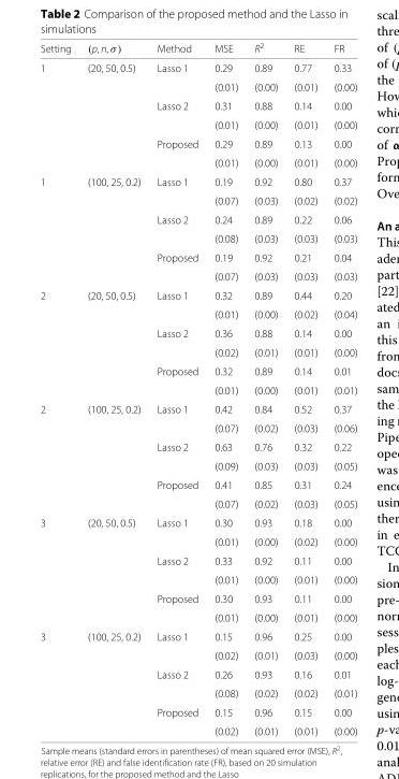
<table><thead><tr><td>Setting</td><td>(p, n, σ)</td><td>Method</td><td>MSE</td><td>R<sup>2</sup></td><td>RE</td><td>FR</td></tr></thead><tbody><tr><td rowspan="6">1</td><td>(20, 50, 0.5)</td><td>Lasso 1</td><td>0.29</td><td>0.89</td><td>0.77</td><td>0.33</td></tr><tr><td></td><td></td><td>(0.01)</td><td>(0.00)</td><td>(0.01)</td><td>(0.00)</td></tr><tr><td></td><td>Lasso 2</td><td>0.31</td><td>0.88</td><td>0.14</td><td>0.00</td></tr><tr><td></td><td></td><td>(0.01)</td><td>(0.00)</td><td>(0.01)</td><td>(0.00)</td></tr><tr><td></td><td>Proposed</td><td>0.29</td><td>0.89</td><td>0.13</td><td>0.00</td></tr><tr><td></td><td></td><td>(0.01)</td><td>(0.00)</td><td>(0.01)</td><td>(0.00)</td></tr><tr><td rowspan="6">1</td><td>(100, 25, 0.2)</td><td>Lasso 1</td><td>0.19</td><td>0.92</td><td>0.80</td><td>0.37</td></tr><tr><td></td><td></td><td>(0.07)</td><td>(0.03)</td><td>(0.02)</td><td>(0.02)</td></tr><tr><td></td><td>Lasso 2</td><td>0.24</td><td>0.89</td><td>0.22</td><td>0.06</td></tr><tr><td></td><td></td><td>(0.08)</td><td>(0.03)</td><td>(0.03)</td><td>(0.03)</td></tr><tr><td></td><td>Proposed</td><td>0.19</td><td>0.92</td><td>0.21</td><td>0.04</td></tr><tr><td></td><td></td><td>(0.07)</td><td>(0.03)</td><td>(0.03)</td><td>(0.03)</td></tr><tr><td rowspan="6">2</td><td>(20, 50, 0.5)</td><td>Lasso 1</td><td>0.32</td><td>0.89</td><td>0.44</td><td>0.20</td></tr><tr><td></td><td></td><td>(0.01)</td><td>(0.00)</td><td>(0.02)</td><td>(0.04)</td></tr><tr><td></td><td>Lasso 2</td><td>0.36</td><td>0.88</td><td>0.14</td><td>0.00</td></tr><tr><td></td><td></td><td>(0.02)</td><td>(0.01)</td><td>(0.01)</td><td>(0.00)</td></tr><tr><td></td><td>Proposed</td><td>0.32</td><td>0.89</td><td>0.14</td><td>0.01</td></tr><tr><td></td><td></td><td>(0.01)</td><td>(0.00)</td><td>(0.01)</td><td>(0.01)</td></tr><tr><td rowspan="6">2</td><td>(100, 25, 0.2)</td><td>Lasso 1</td><td>0.42</td><td>0.84</td><td>0.52</td><td>0.37</td></tr><tr><td></td><td></td><td>(0.07)</td><td>(0.02)</td><td>(0.03)</td><td>(0.06)</td></tr><tr><td></td><td>Lasso 2</td><td>0.63</td><td>0.76</td><td>0.32</td><td>0.22</td></tr><tr><td></td><td></td><td>(0.09)</td><td>(0.03)</td><td>(0.03)</td><td>(0.05)</td></tr><tr><td></td><td>Proposed</td><td>0.41</td><td>0.85</td><td>0.31</td><td>0.24</td></tr><tr><td></td><td></td><td>(0.07)</td><td>(0.02)</td><td>(0.03)</td><td>(0.05)</td></tr><tr><td rowspan="6">3</td><td>(20, 50, 0.5)</td><td>Lasso 1</td><td>0.30</td><td>0.93</td><td>0.18</td><td>0.00</td></tr><tr><td></td><td></td><td>(0.01)</td><td>(0.00)</td><td>(0.02)</td><td>(0.00)</td></tr><tr><td></td><td>Lasso 2</td><td>0.33</td><td>0.92</td><td>0.11</td><td>0.00</td></tr><tr><td></td><td></td><td>(0.01)</td><td>(0.00)</td><td>(0.01)</td><td>(0.00)</td></tr><tr><td></td><td>Proposed</td><td>0.30</td><td>0.93</td><td>0.11</td><td>0.00</td></tr><tr><td></td><td></td><td>(0.01)</td><td>(0.00)</td><td>(0.01)</td><td>(0.00)</td></tr><tr><td rowspan="6">3</td><td>(100, 25, 0.2)</td><td>Lasso 1</td><td>0.15</td><td>0.96</td><td>0.25</td><td>0.00</td></tr><tr><td></td><td></td><td>(0.02)</td><td>(0.01)</td><td>(0.03)</td><td>(0.00)</td></tr><tr><td></td><td>Lasso 2</td><td>0.26</td><td>0.93</td><td>0.16</td><td>0.01</td></tr><tr><td></td><td></td><td>(0.08)</td><td>(0.02)</td><td>(0.02)</td><td>(0.01)</td></tr><tr><td></td><td>Proposed</td><td>0.15</td><td>0.96</td><td>0.15</td><td>0.00</td></tr><tr><td></td><td></td><td>(0.02)</td><td>(0.01)</td><td>(0.01)</td><td>(0.00)</td></tr></tbody></table>